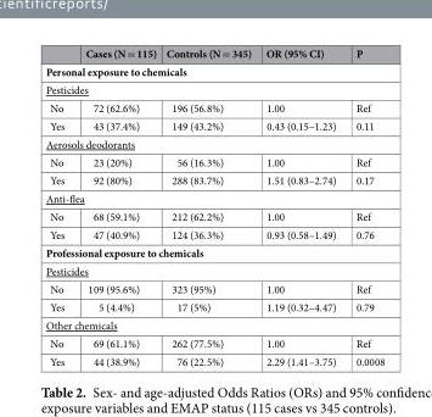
<table><thead><tr><td></td><td>Cases (N = 115)</td><td>Controls (N = 345)</td><td>OR (95% CI)</td><td>P</td></tr></thead><tbody><tr><td colspan="5">Personal exposure to chemicals</td></tr><tr><td colspan="5">Pesticides</td></tr><tr><td>No</td><td>72 (62.6%)</td><td>196 (56.8%)</td><td>1.00</td><td>Ref</td></tr><tr><td>Yes</td><td>43 (37.4%)</td><td>149 (43.2%)</td><td>0.43 (0.15–1.23)</td><td>0.11</td></tr><tr><td colspan="5">Aerosols deodorants</td></tr><tr><td>No</td><td>23 (20%)</td><td>56 (16.3%)</td><td>1.00</td><td>Ref</td></tr><tr><td>Yes</td><td>92 (80%)</td><td>288 (83.7%)</td><td>1.51 (0.83–2.74)</td><td>0.17</td></tr><tr><td colspan="5">Anti-flea</td></tr><tr><td>No</td><td>68 (59.1%)</td><td>212 (62.2%)</td><td>1.00</td><td>Ref</td></tr><tr><td>Yes</td><td>47 (40.9%)</td><td>124 (36.3%)</td><td>0.93 (0.58–1.49)</td><td>0.76</td></tr><tr><td colspan="5">Professional exposure to chemicals</td></tr><tr><td colspan="5">Pesticides</td></tr><tr><td>No</td><td>109 (95.6%)</td><td>323 (95%)</td><td>1.00</td><td>Ref</td></tr><tr><td>Yes</td><td>5 (4.4%)</td><td>17 (5%)</td><td>1.19 (0.32–4.47)</td><td>0.79</td></tr><tr><td colspan="5">Other chemicals</td></tr><tr><td>No</td><td>69 (61.1%)</td><td>262 (77.5%)</td><td>1.00</td><td>Ref</td></tr><tr><td>Yes</td><td>44 (38.9%)</td><td>76 (22.5%)</td><td>2.29 (1.41–3.75)</td><td>0.0008</td></tr></tbody></table>